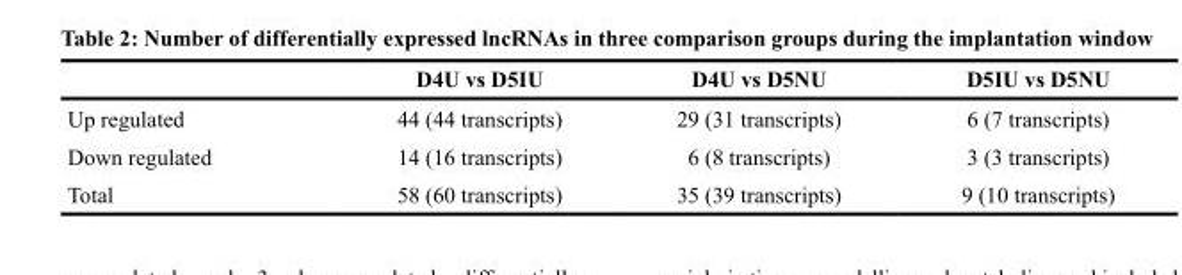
<table><thead><tr><td></td><td>D4U vs D5IU</td><td>D4U vs D5NU</td><td>D5IU vs D5NU</td></tr></thead><tbody><tr><td>Up regulated</td><td>44 (44 transcripts)</td><td>29 (31 transcripts)</td><td>6 (7 transcripts)</td></tr><tr><td>Down regulated</td><td>14 (16 transcripts)</td><td>6 (8 transcripts)</td><td>3 (3 transcripts)</td></tr><tr><td>Total</td><td>58 (60 transcripts)</td><td>35 (39 transcripts)</td><td>9 (10 transcripts)</td></tr></tbody></table>